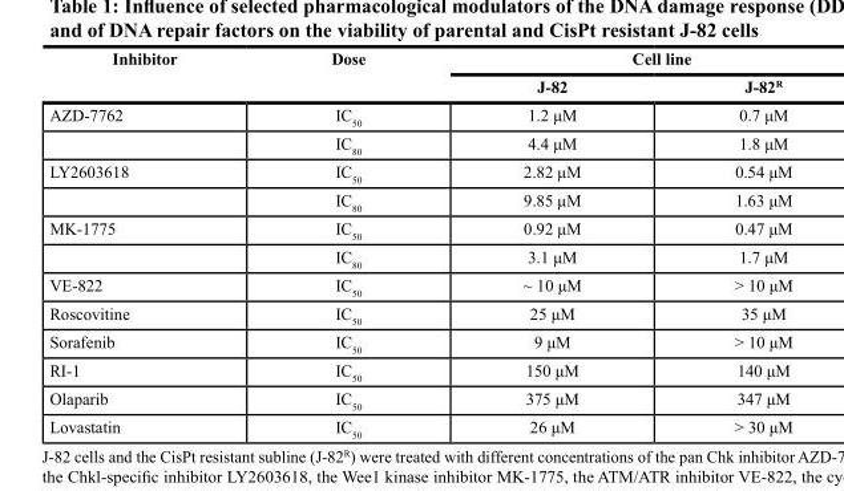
<table><thead><tr><td rowspan="2">Inhibitor</td><td rowspan="2">Dose</td><td colspan="2">Cell line</td></tr><tr><td>J-82</td><td>J-82<sup>R</sup></td></tr></thead><tbody><tr><td rowspan="2">AZD-7762</td><td>IC<sub>50</sub></td><td>1.2 μM</td><td>0.7 μM</td></tr><tr><td>IC<sub>80</sub></td><td>4.4 μM</td><td>1.8 μM</td></tr><tr><td rowspan="2">LY2603618</td><td>IC<sub>50</sub></td><td>2.82 μM</td><td>0.54 μM</td></tr><tr><td>IC<sub>80</sub></td><td>9.85 μM</td><td>1.63 μM</td></tr><tr><td rowspan="2">MK-1775</td><td>IC<sub>50</sub></td><td>0.92 μM</td><td>0.47 μM</td></tr><tr><td>IC<sub>80</sub></td><td>3.1 μM</td><td>1.7 μM</td></tr><tr><td>VE-822</td><td>IC<sub>50</sub></td><td>~ 10 μM</td><td>&gt; 10 μM</td></tr><tr><td>Roscovitine</td><td>IC<sub>50</sub></td><td>25 μM</td><td>35 μM</td></tr><tr><td>Sorafenib</td><td>IC<sub>50</sub></td><td>9 μM</td><td>&gt; 10 μM</td></tr><tr><td>RI-1</td><td>IC<sub>50</sub></td><td>150 μM</td><td>140 μM</td></tr><tr><td>Olaparib</td><td>IC<sub>50</sub></td><td>375 μM</td><td>347 μM</td></tr><tr><td>Lovastatin</td><td>IC<sub>50</sub></td><td>26 μM</td><td>&gt; 30 μM</td></tr></tbody></table>